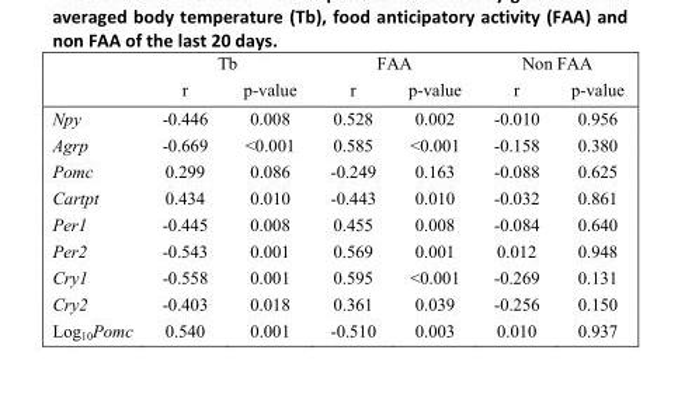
<table><thead><tr><td rowspan="2"></td><td colspan="2">Tb</td><td colspan="2">FAA</td><td colspan="2">Non FAA</td></tr><tr><td>r</td><td>p-value</td><td>r</td><td>p-value</td><td>r</td><td>p-value</td></tr></thead><tbody><tr><td>Npy</td><td>-0.446</td><td>0.008</td><td>0.528</td><td>0.002</td><td>-0.010</td><td>0.956</td></tr><tr><td>Agrp</td><td>-0.669</td><td>&lt;0.001</td><td>0.585</td><td>&lt;0.001</td><td>-0.158</td><td>0.380</td></tr><tr><td>Pomc</td><td>0.299</td><td>0.086</td><td>-0.249</td><td>0.163</td><td>-0.088</td><td>0.625</td></tr><tr><td>Cartpt</td><td>0.434</td><td>0.010</td><td>-0.443</td><td>0.010</td><td>-0.032</td><td>0.861</td></tr><tr><td>Per1</td><td>-0.445</td><td>0.008</td><td>0.455</td><td>0.008</td><td>-0.084</td><td>0.640</td></tr><tr><td>Per2</td><td>-0.543</td><td>0.001</td><td>0.569</td><td>0.001</td><td>0.012</td><td>0.948</td></tr><tr><td>Cry1</td><td>-0.558</td><td>0.001</td><td>0.595</td><td>&lt;0.001</td><td>-0.269</td><td>0.131</td></tr><tr><td>Cry2</td><td>-0.403</td><td>0.018</td><td>0.361</td><td>0.039</td><td>-0.256</td><td>0.150</td></tr><tr><td>Log<sub>10</sub>Pomc</td><td>0.540</td><td>0.001</td><td>-0.510</td><td>0.003</td><td>0.010</td><td>0.937</td></tr></tbody></table>